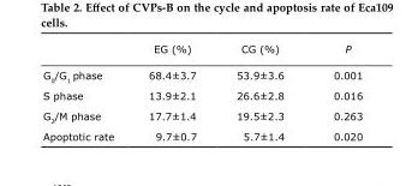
<table><thead><tr><td></td><td>EG (%)</td><td>CG (%)</td><td>P</td></tr></thead><tbody><tr><td>G<sub>0</sub>/G<sub>1</sub> phase</td><td>68.4±3.7</td><td>53.9±3.6</td><td>0.001</td></tr><tr><td>S phase</td><td>13.9±2.1</td><td>26.6±2.8</td><td>0.016</td></tr><tr><td>G<sub>2</sub>/M phase</td><td>17.7±1.4</td><td>19.5±2.3</td><td>0.263</td></tr><tr><td>Apoptotic rate</td><td>9.7±0.7</td><td>5.7±1.4</td><td>0.020</td></tr></tbody></table>